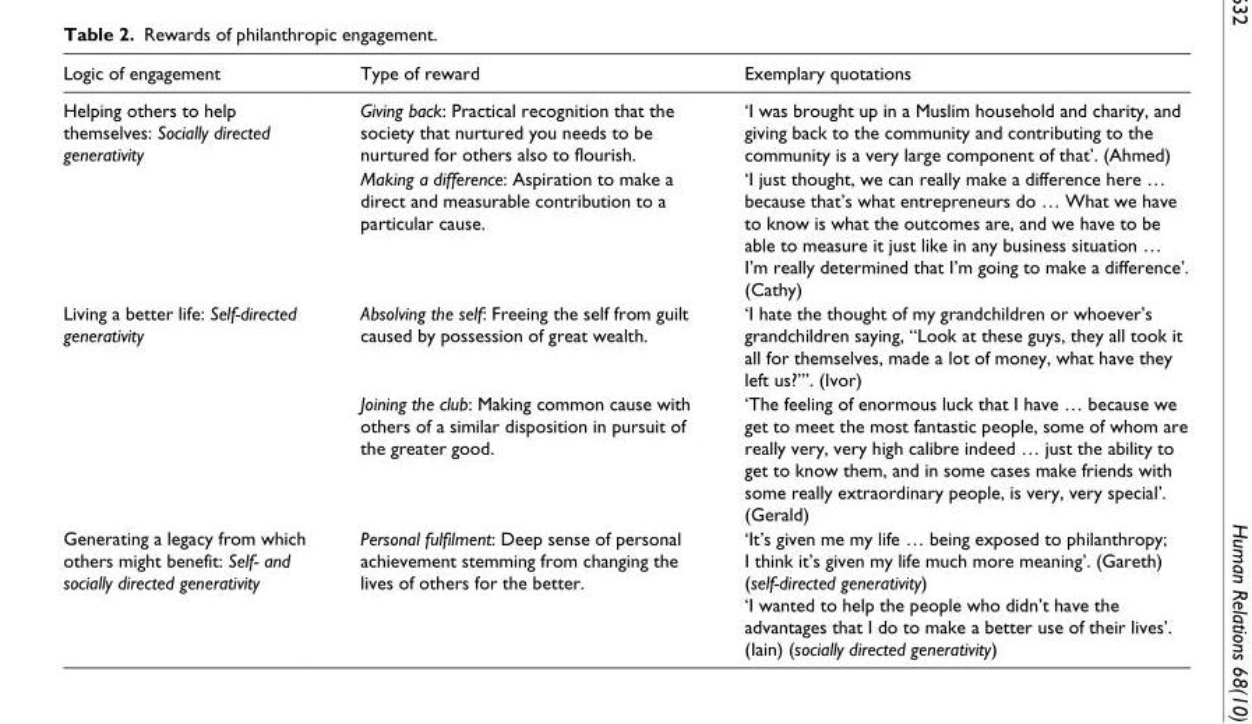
<table><thead><tr><td>Logic of engagement</td><td>Type of reward</td><td>Exemplary quotations</td></tr></thead><tbody><tr><td rowspan="2">Helping others to help themselves: Socially directed generativity</td><td>Giving back: Practical recognition that the society that nurtured you needs to be nurtured for others also to flourish.</td><td>‘I was brought up in a Muslim household and charity, and giving back to the community and contributing to the community is a very large component of that’. (Ahmed)</td></tr><tr><td>Making a difference: Aspiration to make a direct and measurable contribution to a particular cause.</td><td>‘I just thought, we can really make a difference here … because that’s what entrepreneurs do … What we have to know is what the outcomes are, and we have to be able to measure it just like in any business situation … I’m really determined that I’m going to make a difference’. (Cathy)</td></tr><tr><td rowspan="2">Living a better life: Self-directed generativity</td><td>Absolving the self: Freeing the self from guilt caused by possession of great wealth.</td><td>‘I hate the thought of my grandchildren or whoever’s grandchildren saying, “Look at these guys, they all took it all for themselves, made a lot of money, what have they left us?”’. (Ivor)</td></tr><tr><td>Joining the club: Making common cause with others of a similar disposition in pursuit of the greater good.</td><td>‘The feeling of enormous luck that I have … because we get to meet the most fantastic people, some of whom are really very, very high calibre indeed … just the ability to get to know them, and in some cases make friends with some really extraordinary people, is very, very special’. (Gerald)</td></tr><tr><td>Generating a legacy from which others might benefit: Self- and socially directed generativity</td><td>Personal fulfilment: Deep sense of personal achievement stemming from changing the lives of others for the better.</td><td>‘It’s given me my life … being exposed to philanthropy; I think it’s given my life much more meaning’. (Gareth) (self-directed generativity) ‘I wanted to help the people who didn’t have the advantages that I do to make a better use of their lives’. (Iain) (socially directed generativity)</td></tr></tbody></table>